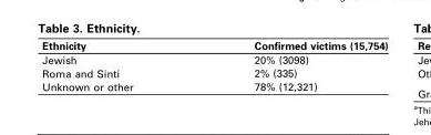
<table><thead><tr><td>Ethnicity</td><td>Confirmed victims (15,754)</td></tr></thead><tbody><tr><td>Jewish</td><td>20% (3098)</td></tr><tr><td>Roma and Sinti</td><td>2% (335)</td></tr><tr><td>Unknown or other</td><td>78% (12,321)</td></tr></tbody></table>